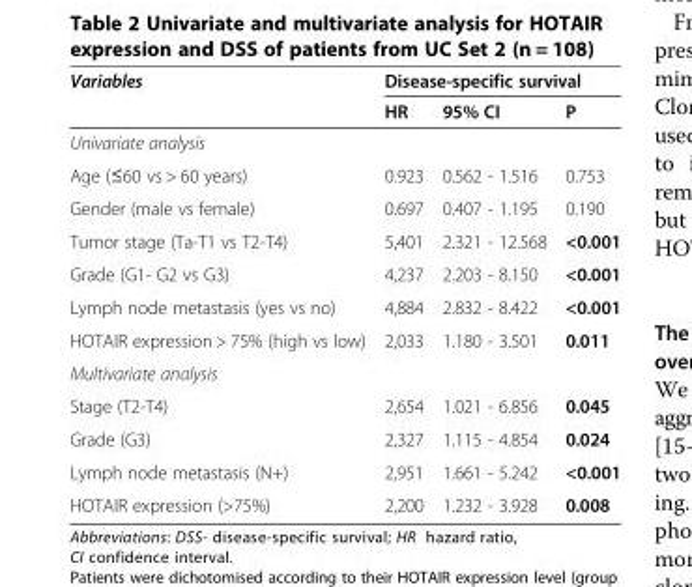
<table><thead><tr><td rowspan="2">Variables</td><td colspan="3">Disease-specific survival</td></tr><tr><td>HR</td><td>95% CI</td><td>P</td></tr></thead><tbody><tr><td colspan="4">Univariate analysis</td></tr><tr><td>Age (≤60 vs &gt; 60 years)</td><td>0.923</td><td>0.562 - 1.516</td><td>0.753</td></tr><tr><td>Gender (male vs female)</td><td>0.697</td><td>0.407 - 1.195</td><td>0.190</td></tr><tr><td>Tumor stage (Ta-T1 vs T2-T4)</td><td>5,401</td><td>2.321 - 12.568</td><td>&lt;0.001</td></tr><tr><td>Grade (G1- G2 vs G3)</td><td>4,237</td><td>2.203 - 8.150</td><td>&lt;0.001</td></tr><tr><td>Lymph node metastasis (yes vs no)</td><td>4,884</td><td>2.832 - 8.422</td><td>&lt;0.001</td></tr><tr><td>HOTAIR expression &gt; 75% (high vs low)</td><td>2,033</td><td>1.180 - 3.501</td><td>0.011</td></tr><tr><td colspan="4">Multivariate analysis</td></tr><tr><td>Stage (T2-T4)</td><td>2,654</td><td>1.021 - 6.856</td><td>0.045</td></tr><tr><td>Grade (G3)</td><td>2,327</td><td>1.115 - 4.854</td><td>0.024</td></tr><tr><td>Lymph node metastasis (N+)</td><td>2,951</td><td>1.661 - 5.242</td><td>&lt;0.001</td></tr><tr><td>HOTAIR expression (&gt;75%)</td><td>2,200</td><td>1.232 - 3.928</td><td>0.008</td></tr></tbody></table>